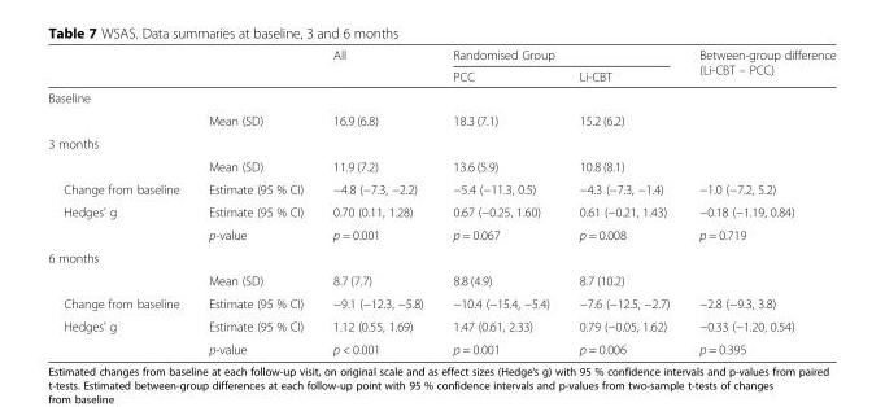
<table><thead><tr><td rowspan="2"></td><td rowspan="2"></td><td rowspan="2">All</td><td colspan="2">Randomised Group</td><td rowspan="2">Between-group difference (Li-CBT – PCC)</td></tr><tr><td>PCC</td><td>Li-CBT</td></tr></thead><tbody><tr><td colspan="6">Baseline</td></tr><tr><td></td><td>Mean (SD)</td><td>16.9 (6.8)</td><td>18.3 (7.1)</td><td>15.2 (6.2)</td><td></td></tr><tr><td colspan="6">3 months</td></tr><tr><td></td><td>Mean (SD)</td><td>11.9 (7.2)</td><td>13.6 (5.9)</td><td>10.8 (8.1)</td><td></td></tr><tr><td>Change from baseline</td><td>Estimate (95 % CI)</td><td>−4.8 (−7.3, −2.2)</td><td>−5.4 (−11.3, 0.5)</td><td>−4.3 (−7.3, −1.4)</td><td>−1.0 (−7.2, 5.2)</td></tr><tr><td rowspan="2">Hedges&#x27; g</td><td>Estimate (95 % CI)</td><td>0.70 (0.11, 1.28)</td><td>0.67 (−0.25, 1.60)</td><td>0.61 (−0.21, 1.43)</td><td>−0.18 (−1.19, 0.84)</td></tr><tr><td>p-value</td><td>p = 0.001</td><td>p = 0.067</td><td>p = 0.008</td><td>p = 0.719</td></tr><tr><td colspan="6">6 months</td></tr><tr><td></td><td>Mean (SD)</td><td>8.7 (7.7)</td><td>8.8 (4.9)</td><td>8.7 (10.2)</td><td></td></tr><tr><td>Change from baseline</td><td>Estimate (95 % CI)</td><td>−9.1 (−12.3, −5.8)</td><td>−10.4 (−15.4, −5.4)</td><td>−7.6 (−12.5, −2.7)</td><td>−2.8 (−9.3, 3.8)</td></tr><tr><td rowspan="2">Hedges&#x27; g</td><td>Estimate (95 % CI)</td><td>1.12 (0.55, 1.69)</td><td>1.47 (0.61, 2.33)</td><td>0.79 (−0.05, 1.62)</td><td>−0.33 (−1.20, 0.54)</td></tr><tr><td>p-value</td><td>p &lt; 0.001</td><td>p = 0.001</td><td>p = 0.006</td><td>p = 0.395</td></tr></tbody></table>